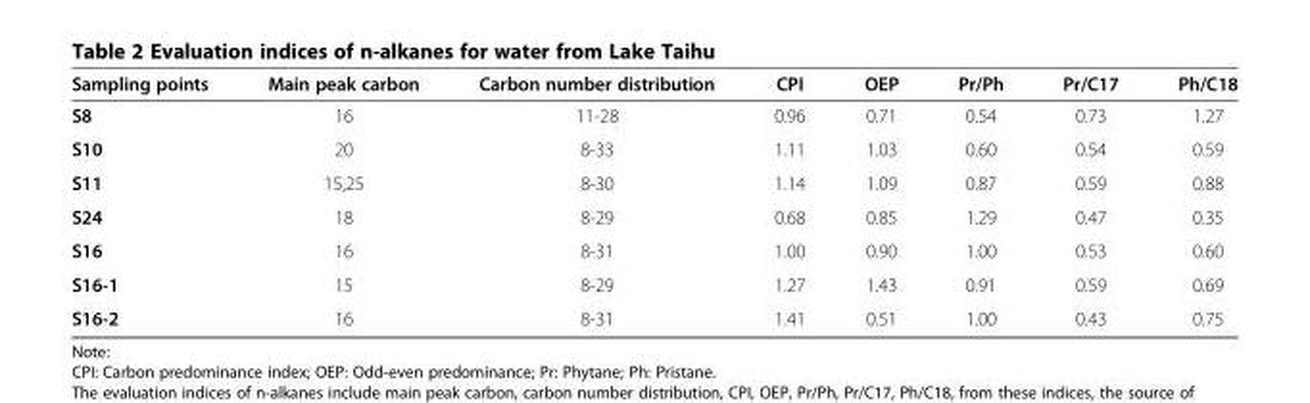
<table><thead><tr><td>Sampling points</td><td>Main peak carbon</td><td>Carbon number distribution</td><td>CPI</td><td>OEP</td><td>Pr/Ph</td><td>Pr/C17</td><td>Ph/C18</td></tr></thead><tbody><tr><td>S8</td><td>16</td><td>11-28</td><td>0.96</td><td>0.71</td><td>0.54</td><td>0.73</td><td>1.27</td></tr><tr><td>S10</td><td>20</td><td>8-33</td><td>1.11</td><td>1.03</td><td>0.60</td><td>0.54</td><td>0.59</td></tr><tr><td>S11</td><td>15,25</td><td>8-30</td><td>1.14</td><td>1.09</td><td>0.87</td><td>0.59</td><td>0.88</td></tr><tr><td>S24</td><td>18</td><td>8-29</td><td>0.68</td><td>0.85</td><td>1.29</td><td>0.47</td><td>0.35</td></tr><tr><td>S16</td><td>16</td><td>8-31</td><td>1.00</td><td>0.90</td><td>1.00</td><td>0.53</td><td>0.60</td></tr><tr><td>S16-1</td><td>15</td><td>8-29</td><td>1.27</td><td>1.43</td><td>0.91</td><td>0.59</td><td>0.69</td></tr><tr><td>S16-2</td><td>16</td><td>8-31</td><td>1.41</td><td>0.51</td><td>1.00</td><td>0.43</td><td>0.75</td></tr></tbody></table>